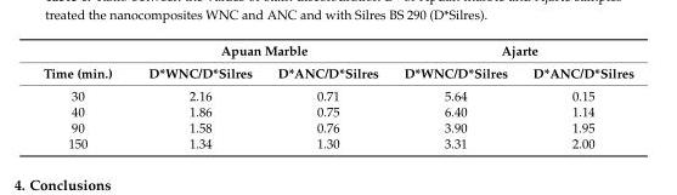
<table><thead><tr><td rowspan="2">Time (min.)</td><td colspan="2">Apuan Marble</td><td colspan="2">Ajarte</td></tr><tr><td>D*WNC/D*Silres</td><td>D*ANC/D*Silres</td><td>D*WNC/D*Silres</td><td>D*ANC/D*Silres</td></tr></thead><tbody><tr><td>30</td><td>2.16</td><td>0.71</td><td>5.64</td><td>0.15</td></tr><tr><td>40</td><td>1.86</td><td>0.75</td><td>6.40</td><td>1.14</td></tr><tr><td>90</td><td>1.58</td><td>0.76</td><td>3.90</td><td>1.95</td></tr><tr><td>150</td><td>1.34</td><td>1.30</td><td>3.31</td><td>2.00</td></tr></tbody></table>